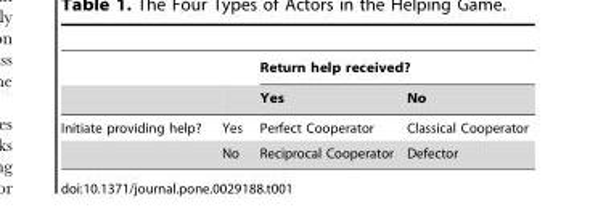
<table><thead><tr><td rowspan="2"></td><td rowspan="2"></td><td colspan="2">Return help received?</td></tr><tr><td>Yes</td><td>No</td></tr></thead><tbody><tr><td rowspan="2">Initiate providing help?</td><td>Yes</td><td>Perfect Cooperator</td><td>Classical Cooperator</td></tr><tr><td>No</td><td>Reciprocal Cooperator</td><td>Defector</td></tr></tbody></table>